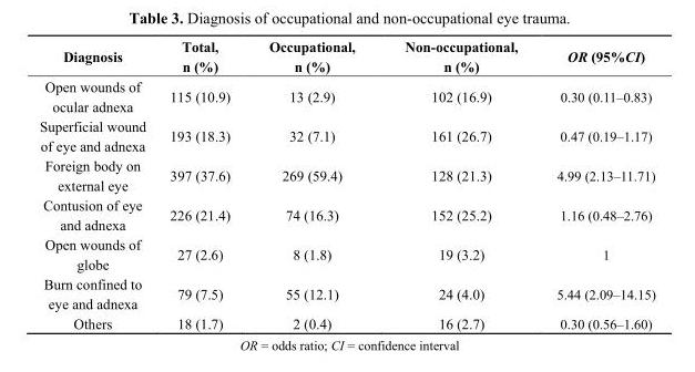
<table><thead><tr><td>Diagnosis</td><td>Total, n (%)</td><td>Occupational, n (%)</td><td>Non-occupational, n (%)</td><td>OR (95%CI)</td></tr></thead><tbody><tr><td>Open wounds of ocular adnexa</td><td>115 (10.9)</td><td>13 (2.9)</td><td>102 (16.9)</td><td>0.30 (0.11–0.83)</td></tr><tr><td>Superficial wound of eye and adnexa</td><td>193 (18.3)</td><td>32 (7.1)</td><td>161 (26.7)</td><td>0.47 (0.19–1.17)</td></tr><tr><td>Foreign body on external eye</td><td>397 (37.6)</td><td>269 (59.4)</td><td>128 (21.3)</td><td>4.99 (2.13–11.71)</td></tr><tr><td>Contusion of eye and adnexa</td><td>226 (21.4)</td><td>74 (16.3)</td><td>152 (25.2)</td><td>1.16 (0.48–2.76)</td></tr><tr><td>Open wounds of globe</td><td>27 (2.6)</td><td>8 (1.8)</td><td>19 (3.2)</td><td>1</td></tr><tr><td>Burn confined to eye and adnexa</td><td>79 (7.5)</td><td>55 (12.1)</td><td>24 (4.0)</td><td>5.44 (2.09–14.15)</td></tr><tr><td>Others</td><td>18 (1.7)</td><td>2 (0.4)</td><td>16 (2.7)</td><td>0.30 (0.56–1.60)</td></tr></tbody></table>